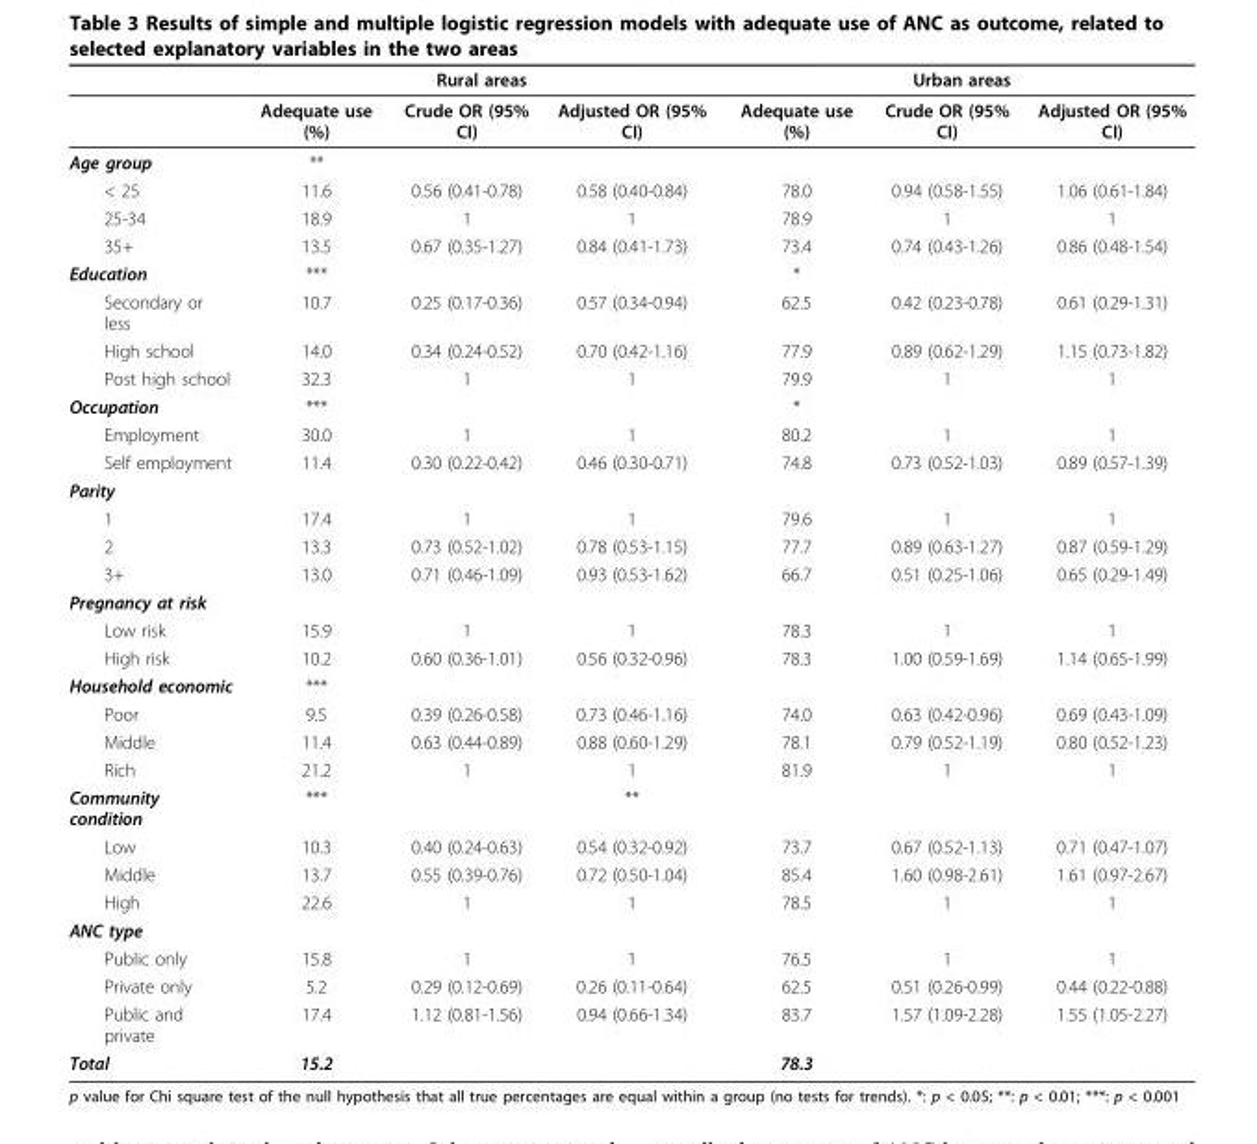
<table><thead><tr><td rowspan="2"></td><td colspan="3">Rural areas</td><td colspan="3">Urban areas</td></tr><tr><td>Adequate use (%)</td><td>Crude OR (95% CI)</td><td>Adjusted OR (95% CI)</td><td>Adequate use (%)</td><td>Crude OR (95% CI)</td><td>Adjusted OR (95% CI)</td></tr></thead><tbody><tr><td>Age group</td><td>**</td><td></td><td></td><td></td><td></td><td></td></tr><tr><td>&lt; 25</td><td>11.6</td><td>0.56 (0.41-0.78)</td><td>0.58 (0.40-0.84)</td><td>78.0</td><td>0.94 (0.58-1.55)</td><td>1.06 (0.61-1.84)</td></tr><tr><td>25-34</td><td>18.9</td><td>1</td><td>1</td><td>78.9</td><td>1</td><td>1</td></tr><tr><td>35+</td><td>13.5</td><td>0.67 (0.35-1.27)</td><td>0.84 (0.41-1.73)</td><td>73.4</td><td>0.74 (0.43-1.26)</td><td>0.86 (0.48-1.54)</td></tr><tr><td>Education</td><td>***</td><td></td><td></td><td>*</td><td></td><td></td></tr><tr><td>Secondary or less</td><td>10.7</td><td>0.25 (0.17-0.36)</td><td>0.57 (0.34-0.94)</td><td>62.5</td><td>0.42 (0.23-0.78)</td><td>0.61 (0.29-1.31)</td></tr><tr><td>High school</td><td>14.0</td><td>0.34 (0.24-0.52)</td><td>0.70 (0.42-1.16)</td><td>77.9</td><td>0.89 (0.62-1.29)</td><td>1.15 (0.73-1.82)</td></tr><tr><td>Post high school</td><td>32.3</td><td>1</td><td>1</td><td>79.9</td><td>1</td><td>1</td></tr><tr><td>Occupation</td><td>***</td><td></td><td></td><td>*</td><td></td><td></td></tr><tr><td>Employment</td><td>30.0</td><td>1</td><td>1</td><td>80.2</td><td>1</td><td>1</td></tr><tr><td>Self employment</td><td>11.4</td><td>0.30 (0.22-0.42)</td><td>0.46 (0.30-0.71)</td><td>74.8</td><td>0.73 (0.52-1.03)</td><td>0.89 (0.57-1.39)</td></tr><tr><td colspan="7">Parity</td></tr><tr><td>1</td><td>17.4</td><td>1</td><td>1</td><td>79.6</td><td>1</td><td>1</td></tr><tr><td>2</td><td>13.3</td><td>0.73 (0.52-1.02)</td><td>0.78 (0.53-1.15)</td><td>77.7</td><td>0.89 (0.63-1.27)</td><td>0.87 (0.59-1.29)</td></tr><tr><td>3+</td><td>13.0</td><td>0.71 (0.46-1.09)</td><td>0.93 (0.53-1.62)</td><td>66.7</td><td>0.51 (0.25-1.06)</td><td>0.65 (0.29-1.49)</td></tr><tr><td colspan="7">Pregnancy at risk</td></tr><tr><td>Low risk</td><td>15.9</td><td>1</td><td>1</td><td>78.3</td><td>1</td><td>1</td></tr><tr><td>High risk</td><td>10.2</td><td>0.60 (0.36-1.01)</td><td>0.56 (0.32-0.96)</td><td>78.3</td><td>1.00 (0.59-1.69)</td><td>1.14 (0.65-1.99)</td></tr><tr><td>Household economic</td><td>***</td><td></td><td></td><td></td><td></td><td></td></tr><tr><td>Poor</td><td>9.5</td><td>0.39 (0.26-0.58)</td><td>0.73 (0.46-1.16)</td><td>74.0</td><td>0.63 (0.42-0.96)</td><td>0.69 (0.43-1.09)</td></tr><tr><td>Middle</td><td>11.4</td><td>0.63 (0.44-0.89)</td><td>0.88 (0.60-1.29)</td><td>78.1</td><td>0.79 (0.52-1.19)</td><td>0.80 (0.52-1.23)</td></tr><tr><td>Rich</td><td>21.2</td><td>1</td><td>1</td><td>81.9</td><td>1</td><td>1</td></tr><tr><td>Community condition</td><td>***</td><td></td><td>**</td><td></td><td></td><td></td></tr><tr><td>Low</td><td>10.3</td><td>0.40 (0.24-0.63)</td><td>0.54 (0.32-0.92)</td><td>73.7</td><td>0.67 (0.52-1.13)</td><td>0.71 (0.47-1.07)</td></tr><tr><td>Middle</td><td>13.7</td><td>0.55 (0.39-0.76)</td><td>0.72 (0.50-1.04)</td><td>85.4</td><td>1.60 (0.98-2.61)</td><td>1.61 (0.97-2.67)</td></tr><tr><td>High</td><td>22.6</td><td>1</td><td>1</td><td>78.5</td><td>1</td><td>1</td></tr><tr><td colspan="7">ANC type</td></tr><tr><td>Public only</td><td>15.8</td><td>1</td><td>1</td><td>76.5</td><td>1</td><td>1</td></tr><tr><td>Private only</td><td>5.2</td><td>0.29 (0.12-0.69)</td><td>0.26 (0.11-0.64)</td><td>62.5</td><td>0.51 (0.26-0.99)</td><td>0.44 (0.22-0.88)</td></tr><tr><td>Public and private</td><td>17.4</td><td>1.12 (0.81-1.56)</td><td>0.94 (0.66-1.34)</td><td>83.7</td><td>1.57 (1.09-2.28)</td><td>1.55 (1.05-2.27)</td></tr><tr><td>Total</td><td>15.2</td><td></td><td></td><td>78.3</td><td></td><td></td></tr></tbody></table>